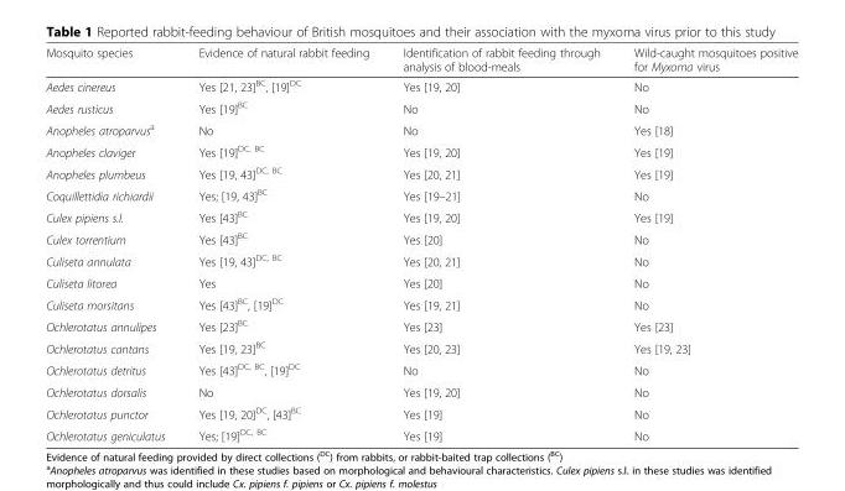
<table><thead><tr><td>Mosquito species</td><td>Evidence of natural rabbit feeding</td><td>Identification of rabbit feeding through analysis of blood-meals</td><td>Wild-caught mosquitoes positive for Myxoma virus</td></tr></thead><tbody><tr><td>Aedes cinereus</td><td>Yes [21, 23]<sup>BC</sup>, [19]<sup>DC</sup></td><td>Yes [19, 20]</td><td>No</td></tr><tr><td>Aedes rusticus</td><td>Yes [19]<sup>BC</sup></td><td>No</td><td>No</td></tr><tr><td>Anopheles atroparvus<sup>a</sup></td><td>No</td><td>No</td><td>Yes [18]</td></tr><tr><td>Anopheles claviger</td><td>Yes [19]<sup>DC, BC</sup></td><td>Yes [19, 20]</td><td>Yes [19]</td></tr><tr><td>Anopheles plumbeus</td><td>Yes [19, 43]<sup>DC, BC</sup></td><td>Yes [20, 21]</td><td>Yes [19]</td></tr><tr><td>Coquillettidia richiardii</td><td>Yes; [19, 43]<sup>BC</sup></td><td>Yes [19–21]</td><td>No</td></tr><tr><td>Culex pipiens s.l.</td><td>Yes [43]<sup>BC</sup></td><td>Yes [19, 20]</td><td>Yes [19]</td></tr><tr><td>Culex torrentium</td><td>Yes [43]<sup>BC</sup></td><td>Yes [20]</td><td>No</td></tr><tr><td>Culiseta annulata</td><td>Yes [19, 43]<sup>DC, BC</sup></td><td>Yes [20, 21]</td><td>No</td></tr><tr><td>Culiseta litorea</td><td>Yes</td><td>Yes [20]</td><td>No</td></tr><tr><td>Culiseta morsitans</td><td>Yes [43]<sup>BC</sup>, [19]<sup>DC</sup></td><td>Yes [19, 21]</td><td>No</td></tr><tr><td>Ochlerotatus annulipes</td><td>Yes [23]<sup>BC</sup></td><td>Yes [23]</td><td>Yes [23]</td></tr><tr><td>Ochlerotatus cantans</td><td>Yes [19, 23]<sup>BC</sup></td><td>Yes [20, 23]</td><td>Yes [19, 23]</td></tr><tr><td>Ochlerotatus detritus</td><td>Yes [43]<sup>DC, BC</sup>, [19]<sup>DC</sup></td><td>No</td><td>No</td></tr><tr><td>Ochlerotatus dorsalis</td><td>No</td><td>Yes [19, 20]</td><td>No</td></tr><tr><td>Ochlerotatus punctor</td><td>Yes [19, 20]<sup>DC</sup>, [43]<sup>BC</sup></td><td>Yes [19]</td><td>No</td></tr><tr><td>Ochlerotatus geniculatus</td><td>Yes; [19]<sup>DC, BC</sup></td><td>Yes [19]</td><td>No</td></tr></tbody></table>